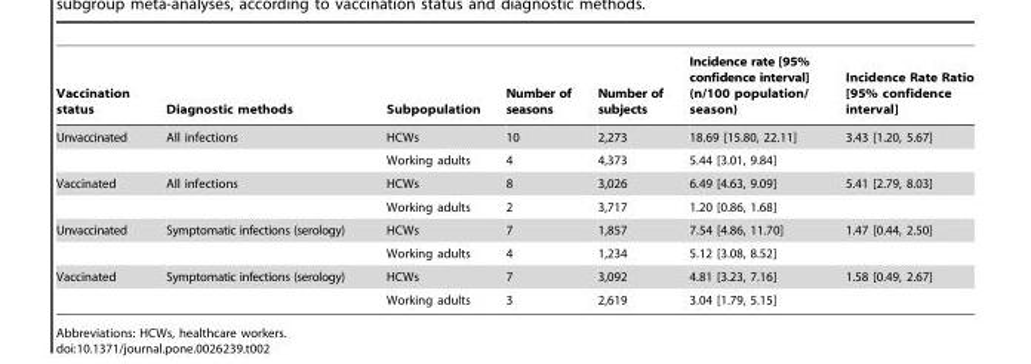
<table><thead><tr><td>Vaccination status</td><td>Diagnostic methods</td><td>Subpopulation</td><td>Number of seasons</td><td>Number of subjects</td><td>Incidence rate [95% confidence interval] (n/100 population/ season)</td><td>Incidence Rate Ratio [95% confidence interval]</td></tr></thead><tbody><tr><td rowspan="2">Unvaccinated</td><td>All infections</td><td>HCWs</td><td>10</td><td>2,273</td><td>18.69 [15.80, 22.11]</td><td>3.43 [1.20, 5.67]</td></tr><tr><td></td><td>Working adults</td><td>4</td><td>4,373</td><td>5.44 [3.01, 9.84]</td><td></td></tr><tr><td rowspan="2">Vaccinated</td><td>All infections</td><td>HCWs</td><td>8</td><td>3,026</td><td>6.49 [4.63, 9.09]</td><td>5.41 [2.79, 8.03]</td></tr><tr><td></td><td>Working adults</td><td>2</td><td>3,717</td><td>1.20 [0.86, 1.68]</td><td></td></tr><tr><td rowspan="2">Unvaccinated</td><td>Symptomatic infections (serology)</td><td>HCWs</td><td>7</td><td>1,857</td><td>7.54 [4.86, 11.70]</td><td>1.47 [0.44, 2.50]</td></tr><tr><td></td><td>Working adults</td><td>4</td><td>1,234</td><td>5.12 [3.08, 8.52]</td><td></td></tr><tr><td rowspan="2">Vaccinated</td><td>Symptomatic infections (serology)</td><td>HCWs</td><td>7</td><td>3,092</td><td>4.81 [3.23, 7.16]</td><td>1.58 [0.49, 2.67]</td></tr><tr><td></td><td>Working adults</td><td>3</td><td>2,619</td><td>3.04 [1.79, 5.15]</td><td></td></tr></tbody></table>